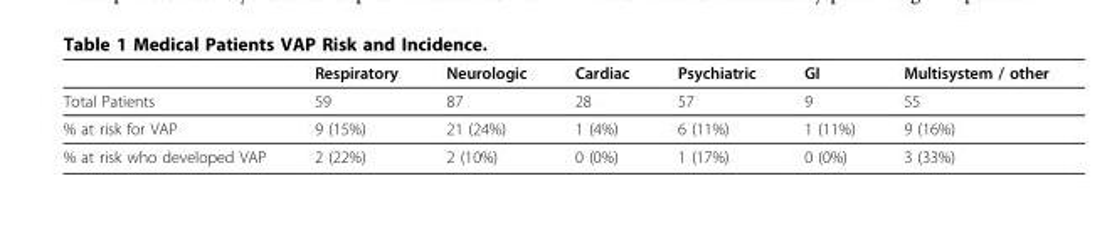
<table><thead><tr><td></td><td>Respiratory</td><td>Neurologic</td><td>Cardiac</td><td>Psychiatric</td><td>GI</td><td>Multisystem / other</td></tr></thead><tbody><tr><td>Total Patients</td><td>59</td><td>87</td><td>28</td><td>57</td><td>9</td><td>55</td></tr><tr><td>% at risk for VAP</td><td>9 (15%)</td><td>21 (24%)</td><td>1 (4%)</td><td>6 (11%)</td><td>1 (11%)</td><td>9 (16%)</td></tr><tr><td>% at risk who developed VAP</td><td>2 (22%)</td><td>2 (10%)</td><td>0 (0%)</td><td>1 (17%)</td><td>0 (0%)</td><td>3 (33%)</td></tr></tbody></table>